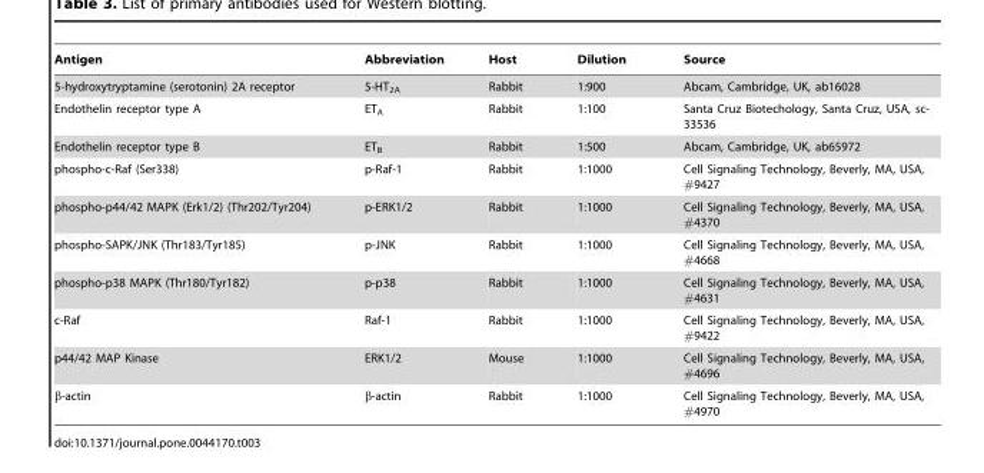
<table><thead><tr><td>Antigen</td><td>Abbreviation</td><td>Host</td><td>Dilution</td><td>Source</td></tr></thead><tbody><tr><td>5-hydroxytryptamine (serotonin) 2A receptor</td><td>5-HT<sub>2A</sub></td><td>Rabbit</td><td>1:900</td><td>Abcam, Cambridge, UK, ab16028</td></tr><tr><td>Endothelin receptor type A</td><td>ET<sub>A</sub></td><td>Rabbit</td><td>1:100</td><td>Santa Cruz Biotechology, Santa Cruz, USA, sc- 33536</td></tr><tr><td>Endothelin receptor type B</td><td>ET<sub>B</sub></td><td>Rabbit</td><td>1:500</td><td>Abcam, Cambridge, UK, ab65972</td></tr><tr><td>phospho-c-Raf (Ser338)</td><td>p-Raf-1</td><td>Rabbit</td><td>1:1000</td><td>Cell Signaling Technology, Beverly, MA, USA, #9427</td></tr><tr><td>phospho-p44/42 MAPK (Erk1/2) (Thr202/Tyr204)</td><td>p-ERK1/2</td><td>Rabbit</td><td>1:1000</td><td>Cell Signaling Technology, Beverly, MA, USA, #4370</td></tr><tr><td>phospho-SAPK/JNK (Thr183/Tyr185)</td><td>p-JNK</td><td>Rabbit</td><td>1:1000</td><td>Cell Signaling Technology, Beverly, MA, USA, #4668</td></tr><tr><td>phospho-p38 MAPK (Thr180/Tyr182)</td><td>p-p38</td><td>Rabbit</td><td>1:1000</td><td>Cell Signaling Technology, Beverly, MA, USA, #4631</td></tr><tr><td>c-Raf</td><td>Raf-1</td><td>Rabbit</td><td>1:1000</td><td>Cell Signaling Technology, Beverly, MA, USA, #9422</td></tr><tr><td>p44/42 MAP Kinase</td><td>ERK1/2</td><td>Mouse</td><td>1:1000</td><td>Cell Signaling Technology, Beverly, MA, USA, #4696</td></tr><tr><td>β-actin</td><td>β-actin</td><td>Rabbit</td><td>1:1000</td><td>Cell Signaling Technology, Beverly, MA, USA, #4970</td></tr></tbody></table>